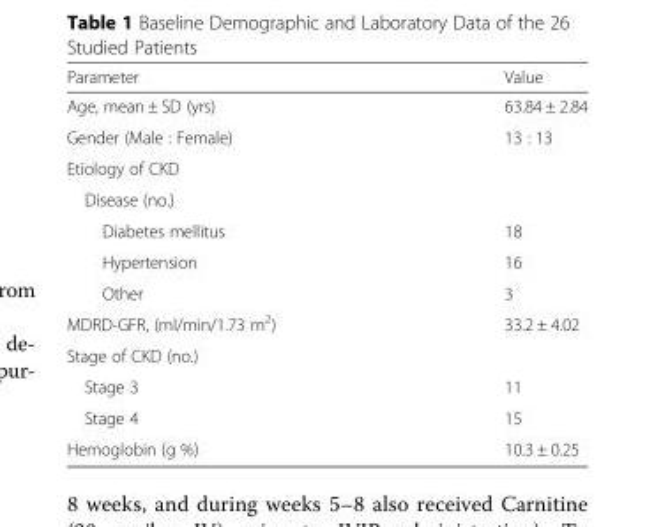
<table><thead><tr><td>Parameter</td><td>Value</td></tr></thead><tbody><tr><td>Age, mean ± SD (yrs)</td><td>63.84 ± 2.84</td></tr><tr><td>Gender (Male : Female)</td><td>13 : 13</td></tr><tr><td colspan="2">Etiology of CKD</td></tr><tr><td colspan="2">Disease (no.)</td></tr><tr><td>Diabetes mellitus</td><td>18</td></tr><tr><td>Hypertension</td><td>16</td></tr><tr><td>Other</td><td>3</td></tr><tr><td>MDRD-GFR, (ml/min/1.73 m<sup>2</sup>)</td><td>33.2 ± 4.02</td></tr><tr><td colspan="2">Stage of CKD (no.)</td></tr><tr><td>Stage 3</td><td>11</td></tr><tr><td>Stage 4</td><td>15</td></tr><tr><td>Hemoglobin (g %)</td><td>10.3 ± 0.25</td></tr></tbody></table>